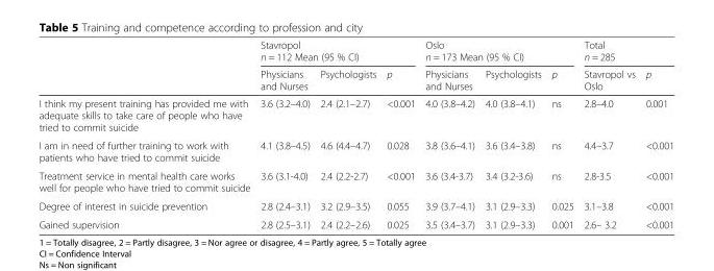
<table><thead><tr><td rowspan="3"></td><td rowspan="2" colspan="3">Stavropol n = 112 Mean (95 % CI)</td><td rowspan="2" colspan="3">Oslo n = 173 Mean (95 % CI)</td><td rowspan="2" colspan="2">Total n = 285</td></tr><tr></tr><tr><td>Physicians and Nurses</td><td>Psychologists</td><td>p</td><td>Physicians and Nurses</td><td>Psychologists</td><td>p</td><td>Stavropol vs Oslo</td><td>p</td></tr></thead><tbody><tr><td>I think my present training has provided me with adequate skills to take care of people who have tried to commit suicide</td><td>3.6 (3.2–4.0)</td><td>2.4 (2.1–2.7)</td><td>&lt;0.001</td><td>4.0 (3.8–4.2)</td><td>4.0 (3.8–4.1)</td><td>ns</td><td>2.8–4.0</td><td>0.001</td></tr><tr><td>I am in need of further training to work with patients who have tried to commit suicide</td><td>4.1 (3.8–4.5)</td><td>4.6 (4.4–4.7)</td><td>0.028</td><td>3.8 (3.6–4.1)</td><td>3.6 (3.4–3.8)</td><td>ns</td><td>4.4–3.7</td><td>&lt;0.001</td></tr><tr><td>Treatment service in mental health care works well for people who have tried to commit suicide</td><td>3.6 (3.1-4.0)</td><td>2.4 (2.2-2.7)</td><td>&lt;0.001</td><td>3.6 (3.4-3.7)</td><td>3.4 (3.2-3.6)</td><td>ns</td><td>2.8-3.5</td><td>&lt;0.001</td></tr><tr><td>Degree of interest in suicide prevention</td><td>2.8 (2.4–3.1)</td><td>3.2 (2.9–3.5)</td><td>0.055</td><td>3.9 (3.7–4.1)</td><td>3.1 (2.9–3.3)</td><td>0.025</td><td>3.1–3.8</td><td>&lt;0.001</td></tr><tr><td>Gained supervision</td><td>2.8 (2.5–3.1)</td><td>2.4 (2.2–2.6)</td><td>0.025</td><td>3.5 (3.4–3.7)</td><td>3.1 (2.9–3.3)</td><td>0.001</td><td>2.6– 3.2</td><td>&lt;0.001</td></tr></tbody></table>